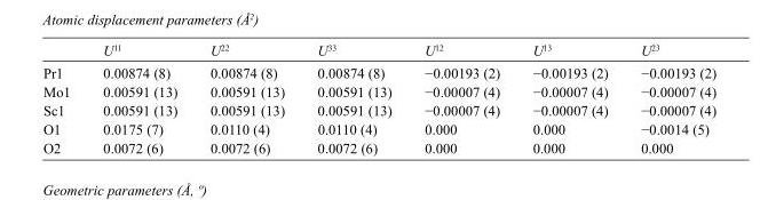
<table><thead><tr><td></td><td>U<sup>11</sup></td><td>U<sup>22</sup></td><td>U<sup>33</sup></td><td>U<sup>12</sup></td><td>U<sup>13</sup></td><td>U<sup>23</sup></td></tr></thead><tbody><tr><td>Pr1</td><td>0.00874 (8)</td><td>0.00874 (8)</td><td>0.00874 (8)</td><td>−0.00193 (2)</td><td>−0.00193 (2)</td><td>−0.00193 (2)</td></tr><tr><td>Mo1</td><td>0.00591 (13)</td><td>0.00591 (13)</td><td>0.00591 (13)</td><td>−0.00007 (4)</td><td>−0.00007 (4)</td><td>−0.00007 (4)</td></tr><tr><td>Sc1</td><td>0.00591 (13)</td><td>0.00591 (13)</td><td>0.00591 (13)</td><td>−0.00007 (4)</td><td>−0.00007 (4)</td><td>−0.00007 (4)</td></tr><tr><td>O1</td><td>0.0175 (7)</td><td>0.0110 (4)</td><td>0.0110 (4)</td><td>0.000</td><td>0.000</td><td>−0.0014 (5)</td></tr><tr><td>O2</td><td>0.0072 (6)</td><td>0.0072 (6)</td><td>0.0072 (6)</td><td>0.000</td><td>0.000</td><td>0.000</td></tr></tbody></table>